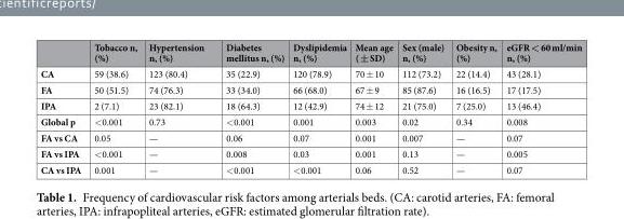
<table><thead><tr><td></td><td>Tobacco n, (%)</td><td>Hypertension n, (%)</td><td>Diabetes mellitus n, (%)</td><td>Dyslipidemia n, (%)</td><td>Mean age ( ± SD)</td><td>Sex (male) n, (%)</td><td>Obesity n, (%)</td><td>eGFR &lt; 60 ml/min n, (%)</td></tr></thead><tbody><tr><td>CA</td><td>59 (38.6)</td><td>123 (80.4)</td><td>35 (22.9)</td><td>120 (78.9)</td><td>70 ± 10</td><td>112 (73.2)</td><td>22 (14.4)</td><td>43 (28.1)</td></tr><tr><td>FA</td><td>50 (51.5)</td><td>74 (76.3)</td><td>33 (34.0)</td><td>66 (68.0)</td><td>67 ± 9</td><td>85 (87.6)</td><td>16 (16.5)</td><td>17 (17.5)</td></tr><tr><td>IPA</td><td>2 (7.1)</td><td>23 (82.1)</td><td>18 (64.3)</td><td>12 (42.9)</td><td>74 ± 12</td><td>21 (75.0)</td><td>7 (25.0)</td><td>13 (46.4)</td></tr><tr><td>Global p</td><td>&lt;0.001</td><td>0.73</td><td>&lt;0.001</td><td>0.001</td><td>0.003</td><td>0.02</td><td>0.34</td><td>0.008</td></tr><tr><td>FA vs CA</td><td>0.05</td><td>—</td><td>0.06</td><td>0.07</td><td>0.001</td><td>0.007</td><td>—</td><td>0.07</td></tr><tr><td>FA vs IPA</td><td>&lt;0.001</td><td>—</td><td>0.008</td><td>0.03</td><td>0.001</td><td>0.13</td><td>—</td><td>0.005</td></tr><tr><td>CA vs IPA</td><td>0.001</td><td>—</td><td>&lt;0.001</td><td>&lt;0.001</td><td>0.06</td><td>0.52</td><td>—</td><td>0.07</td></tr></tbody></table>